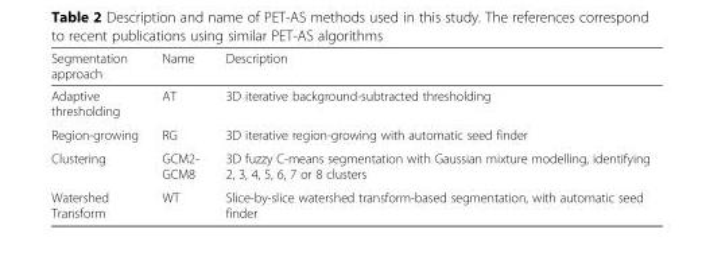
<table><thead><tr><td>Segmentation approach</td><td>Name</td><td>Description</td></tr></thead><tbody><tr><td>Adaptive thresholding</td><td>AT</td><td>3D iterative background-subtracted thresholding</td></tr><tr><td>Region-growing</td><td>RG</td><td>3D iterative region-growing with automatic seed finder</td></tr><tr><td>Clustering</td><td>GCM2- GCM8</td><td>3D fuzzy C-means segmentation with Gaussian mixture modelling, identifying 2, 3, 4, 5, 6, 7 or 8 clusters</td></tr><tr><td>Watershed Transform</td><td>WT</td><td>Slice-by-slice watershed transform-based segmentation, with automatic seed finder</td></tr></tbody></table>